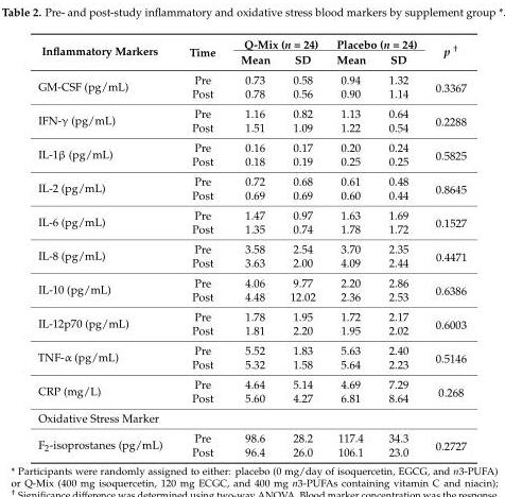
<table><thead><tr><td rowspan="2">Inflammatory Markers</td><td rowspan="2">Time</td><td colspan="2">Q-Mix (n = 24)</td><td colspan="2">Placebo (n = 24)</td><td rowspan="2">p <sup>†</sup></td></tr><tr><td>Mean</td><td>SD</td><td>Mean</td><td>SD</td></tr></thead><tbody><tr><td rowspan="2">GM-CSF (pg/mL)</td><td>Pre</td><td>0.73</td><td>0.58</td><td>0.94</td><td>1.32</td><td rowspan="2">0.3367</td></tr><tr><td>Post</td><td>0.78</td><td>0.56</td><td>0.90</td><td>1.14</td></tr><tr><td rowspan="2">IFN-γ (pg/mL)</td><td>Pre</td><td>1.16</td><td>0.82</td><td>1.13</td><td>0.64</td><td rowspan="2">0.2288</td></tr><tr><td>Post</td><td>1.51</td><td>1.09</td><td>1.22</td><td>0.54</td></tr><tr><td rowspan="2">IL-1β (pg/mL)</td><td>Pre</td><td>0.16</td><td>0.17</td><td>0.20</td><td>0.24</td><td rowspan="2">0.5825</td></tr><tr><td>Post</td><td>0.18</td><td>0.19</td><td>0.25</td><td>0.25</td></tr><tr><td rowspan="2">IL-2 (pg/mL)</td><td>Pre</td><td>0.72</td><td>0.68</td><td>0.61</td><td>0.48</td><td rowspan="2">0.8645</td></tr><tr><td>Post</td><td>0.69</td><td>0.69</td><td>0.60</td><td>0.44</td></tr><tr><td rowspan="2">IL-6 (pg/mL)</td><td>Pre</td><td>1.47</td><td>0.97</td><td>1.63</td><td>1.69</td><td rowspan="2">0.1527</td></tr><tr><td>Post</td><td>1.35</td><td>0.74</td><td>1.78</td><td>1.72</td></tr><tr><td rowspan="2">IL-8 (pg/mL)</td><td>Pre</td><td>3.58</td><td>2.54</td><td>3.70</td><td>2.35</td><td rowspan="2">0.4471</td></tr><tr><td>Post</td><td>3.63</td><td>2.00</td><td>4.09</td><td>2.44</td></tr><tr><td rowspan="2">IL-10 (pg/mL)</td><td>Pre</td><td>4.06</td><td>9.77</td><td>2.20</td><td>2.86</td><td rowspan="2">0.6386</td></tr><tr><td>Post</td><td>4.48</td><td>12.02</td><td>2.36</td><td>2.53</td></tr><tr><td rowspan="2">IL-12p70 (pg/mL)</td><td>Pre</td><td>1.78</td><td>1.95</td><td>1.72</td><td>2.17</td><td rowspan="2">0.6003</td></tr><tr><td>Post</td><td>1.81</td><td>2.20</td><td>1.95</td><td>2.02</td></tr><tr><td rowspan="2">TNF-α (pg/mL)</td><td>Pre</td><td>5.52</td><td>1.83</td><td>5.63</td><td>2.40</td><td rowspan="2">0.5146</td></tr><tr><td>Post</td><td>5.32</td><td>1.58</td><td>5.64</td><td>2.23</td></tr><tr><td rowspan="2">CRP (mg/L)</td><td>Pre</td><td>4.64</td><td>5.14</td><td>4.69</td><td>7.29</td><td rowspan="2">0.268</td></tr><tr><td>Post</td><td>5.60</td><td>4.27</td><td>6.81</td><td>8.64</td></tr><tr><td colspan="7">Oxidative Stress Marker</td></tr><tr><td rowspan="2">F<sub>2</sub>-isoprostanes (pg/mL)</td><td>Pre</td><td>98.6</td><td>28.2</td><td>117.4</td><td>34.3</td><td rowspan="2">0.2727</td></tr><tr><td>Post</td><td>96.4</td><td>26.0</td><td>106.1</td><td>23.0</td></tr></tbody></table>